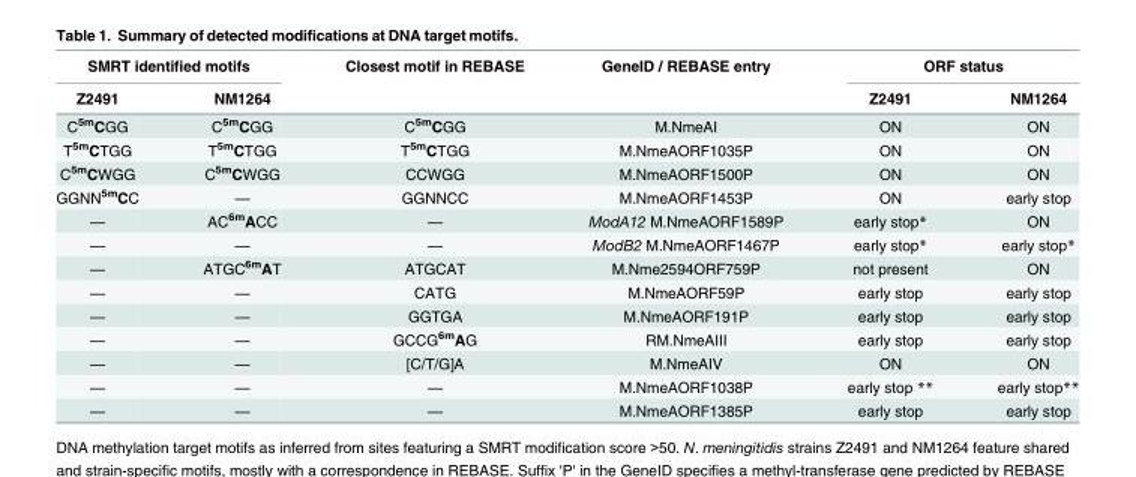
<table><thead><tr><td colspan="2">SMRT identified motifs</td><td rowspan="2">Closest motif in REBASE</td><td rowspan="2">GeneID / REBASE entry</td><td colspan="2">ORF status</td></tr><tr><td>Z2491</td><td>NM1264</td><td>Z2491</td><td>NM1264</td></tr></thead><tbody><tr><td>C<sup>5m</sup>CGG</td><td>C<sup>5m</sup>CGG</td><td>C<sup>5m</sup>CGG</td><td>M.NmeAI</td><td>ON</td><td>ON</td></tr><tr><td>T<sup>5m</sup>CTGG</td><td>T<sup>5m</sup>CTGG</td><td>T<sup>5m</sup>CTGG</td><td>M.NmeAORF1035P</td><td>ON</td><td>ON</td></tr><tr><td>C<sup>5m</sup>CWGG</td><td>C<sup>5m</sup>CWGG</td><td>CCWGG</td><td>M.NmeAORF1500P</td><td>ON</td><td>ON</td></tr><tr><td>GGNN<sup>5m</sup>CC</td><td>—</td><td>GGNNCC</td><td>M.NmeAORF1453P</td><td>ON</td><td>early stop</td></tr><tr><td>—</td><td>AC<sup>6m</sup>ACC</td><td>—</td><td>ModA12 M.NmeAORF1589P</td><td>early stop*</td><td>ON</td></tr><tr><td>—</td><td>—</td><td>—</td><td>ModB2 M.NmeAORF1467P</td><td>early stop*</td><td>early stop*</td></tr><tr><td>—</td><td>ATGC<sup>6m</sup>AT</td><td>ATGCAT</td><td>M.Nme2594ORF759P</td><td>not present</td><td>ON</td></tr><tr><td>—</td><td>—</td><td>CATG</td><td>M.NmeAORF59P</td><td>early stop</td><td>early stop</td></tr><tr><td>—</td><td>—</td><td>GGTGA</td><td>M.NmeAORF191P</td><td>early stop</td><td>early stop</td></tr><tr><td>—</td><td>—</td><td>GCCG<sup>6m</sup>AG</td><td>RM.NmeAIII</td><td>early stop</td><td>early stop</td></tr><tr><td>—</td><td>—</td><td>[C/T/G]A</td><td>M.NmeAIV</td><td>ON</td><td>ON</td></tr><tr><td>—</td><td>—</td><td>—</td><td>M.NmeAORF1038P</td><td>early stop **</td><td>early stop**</td></tr><tr><td>—</td><td>—</td><td>—</td><td>M.NmeAORF1385P</td><td>early stop</td><td>early stop</td></tr></tbody></table>